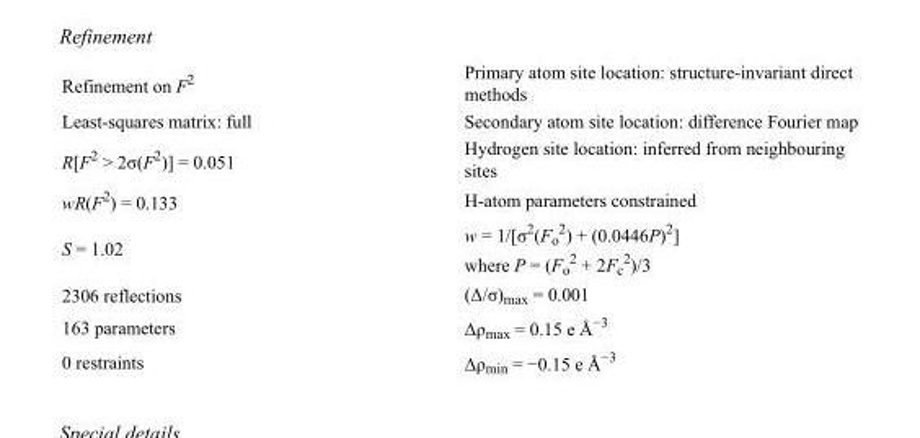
<table><tbody><tr><td>Refinement on F<sup>2</sup></td><td>Primary atom site location: structure-invariant direct methods</td></tr><tr><td>Least-squares matrix: full</td><td>Secondary atom site location: difference Fourier map</td></tr><tr><td>R[F<sup>2</sup> &gt; 2σ(F<sup>2</sup>)] = 0.051</td><td>Hydrogen site location: inferred from neighbouring sites</td></tr><tr><td>wR(F<sup>2</sup>) = 0.133</td><td>H-atom parameters constrained</td></tr><tr><td>S = 1.02</td><td>w = 1/[σ<sup>2</sup>(F<sub>o</sub> <sup>2</sup>) + (0.0446P)<sup>2</sup>] where P = (F<sub>o</sub> <sup>2</sup> + 2F<sub>c</sub> <sup>2</sup>)/3</td></tr><tr><td>2306 reflections</td><td>(Δ/σ)<sub>max</sub> = 0.001</td></tr><tr><td>163 parameters</td><td>Δρ<sub>max</sub> = 0.15 e Å<sup>−3</sup></td></tr><tr><td>0 restraints</td><td>Δρ<sub>min</sub> = −0.15 e Å<sup>−3</sup></td></tr></tbody></table>